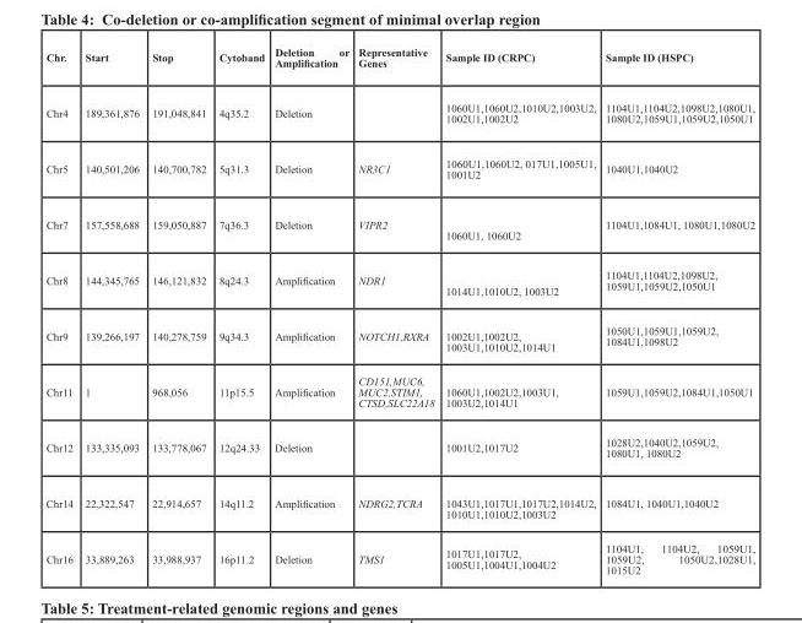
<table><thead><tr><td>chr.</td><td>start</td><td>stop</td><td>cytoband</td><td>Deletion or Amplification</td><td>representative Genes</td><td>sample ID (crPc)</td><td>sample ID (HsPc)</td></tr></thead><tbody><tr><td>Chr4</td><td>189,361,876</td><td>191,048,841</td><td>4q35.2</td><td>Deletion</td><td></td><td>1060U1,1060U2,1010U2,1003U2, 1002U1,1002U2</td><td>1104U1,1104U2,1098U2,1080U1, 1080U2,1059U1,1059U2,1050U1</td></tr><tr><td>Chr5</td><td>140,501,206</td><td>140,700,782</td><td>5q31.3</td><td>Deletion</td><td>NR3C1</td><td>1060U1,1060U2, 017U1,1005U1, 1001U2</td><td>1040U1,1040U2</td></tr><tr><td>Chr7</td><td>157,558,688</td><td>159,050,887</td><td>7q36.3</td><td>Deletion</td><td>VIPR2</td><td>1060U1, 1060U2</td><td>1104U1,1084U1, 1080U1,1080U2</td></tr><tr><td>Chr8</td><td>144,345,765</td><td>146,121,832</td><td>8q24.3</td><td>Amplification</td><td>NDR1</td><td>1014U1,1010U2, 1003U2</td><td>1104U1,1104U2,1098U2, 1059U1,1059U2,1050U1</td></tr><tr><td>Chr9</td><td>139,266,197</td><td>140,278,759</td><td>9q34.3</td><td>Amplification</td><td>NOTCH1,RXRA</td><td>1002U1,1002U2, 1003U1,1010U2,1014U1</td><td>1050U1,1059U1,1059U2, 1084U1,1098U2</td></tr><tr><td>Chr11</td><td>1</td><td>968,056</td><td>11p15.5</td><td>Amplification</td><td>CD151,MUC6, MUC2,STIM1, CTSD,SLC22A18</td><td>1060U1,1002U2,1003U1, 1003U2,1014U1</td><td>1059U1,1059U2,1084U1,1050U1</td></tr><tr><td>Chr12</td><td>133,335,093</td><td>133,778,067</td><td>12q24.33</td><td>Deletion</td><td></td><td>1001U2,1017U2</td><td>1028U2,1040U2,1059U2, 1080U1, 1080U2</td></tr><tr><td>Chr14</td><td>22,322,547</td><td>22,914,657</td><td>14q11.2</td><td>Amplification</td><td>NDRG2,TCRA</td><td>1043U1,1017U1,1017U2,1014U2, 1010U1,1010U2,1003U2</td><td>1084U1, 1040U1,1040U2</td></tr><tr><td>Chr16</td><td>33,889,263</td><td>33,988,937</td><td>16p11.2</td><td>Deletion</td><td>TMS1</td><td>1017U1,1017U2, 1005U1,1004U1,1004U2</td><td>1104U1, 1104U2, 1059U1, 1059U2, 1050U2,1028U1, 1015U2</td></tr></tbody></table>